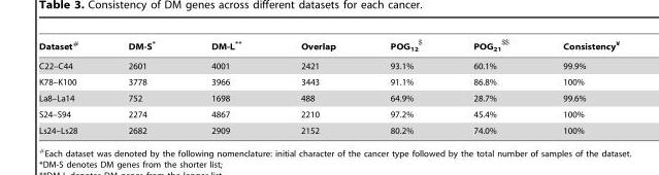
<table><thead><tr><td>Dataset#</td><td>DM-S*</td><td>DM-L**</td><td>Overlap</td><td>POG<sub>12</sub> $</td><td>POG<sub>21</sub> $$</td><td>Consistency¥</td></tr></thead><tbody><tr><td>C22–C44</td><td>2601</td><td>4001</td><td>2421</td><td>93.1%</td><td>60.1%</td><td>99.9%</td></tr><tr><td>K78–K100</td><td>3778</td><td>3966</td><td>3443</td><td>91.1%</td><td>86.8%</td><td>100%</td></tr><tr><td>La8–La14</td><td>752</td><td>1698</td><td>488</td><td>64.9%</td><td>28.7%</td><td>99.6%</td></tr><tr><td>S24–S94</td><td>2274</td><td>4867</td><td>2210</td><td>97.2%</td><td>45.4%</td><td>100%</td></tr><tr><td>Ls24–Ls28</td><td>2682</td><td>2909</td><td>2152</td><td>80.2%</td><td>74.0%</td><td>100%</td></tr></tbody></table>